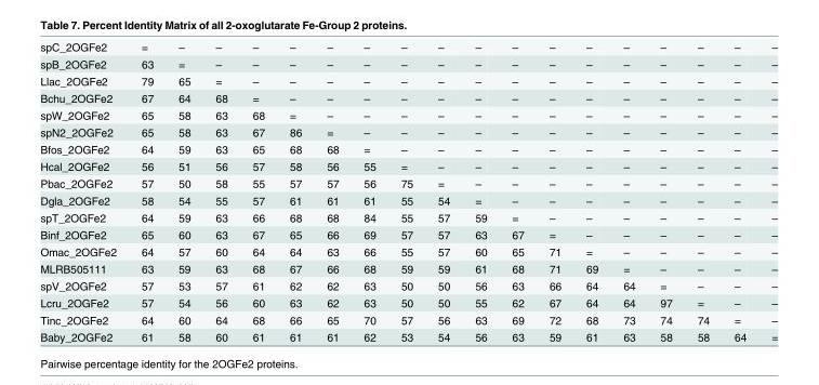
<table><tbody><tr><td>spC_2OGFe2</td><td>=</td><td>–</td><td>–</td><td>–</td><td>–</td><td>–</td><td>–</td><td>–</td><td>–</td><td>–</td><td>–</td><td>–</td><td>–</td><td>–</td><td>–</td><td>–</td><td>–</td><td>–</td></tr><tr><td>spB_2OGFe2</td><td>63</td><td>=</td><td>–</td><td>–</td><td>–</td><td>–</td><td>–</td><td>–</td><td>–</td><td>–</td><td>–</td><td>–</td><td>–</td><td>–</td><td>–</td><td>–</td><td>–</td><td>–</td></tr><tr><td>Llac_2OGFe2</td><td>79</td><td>65</td><td>=</td><td>–</td><td>–</td><td>–</td><td>–</td><td>–</td><td>–</td><td>–</td><td>–</td><td>–</td><td>–</td><td>–</td><td>–</td><td>–</td><td>–</td><td>–</td></tr><tr><td>Bchu_2OGFe2</td><td>67</td><td>64</td><td>68</td><td>=</td><td>–</td><td>–</td><td>–</td><td>–</td><td>–</td><td>–</td><td>–</td><td>–</td><td>–</td><td>–</td><td>–</td><td>–</td><td>–</td><td>–</td></tr><tr><td>spW_2OGFe2</td><td>65</td><td>58</td><td>63</td><td>68</td><td>=</td><td>–</td><td>–</td><td>–</td><td>–</td><td>–</td><td>–</td><td>–</td><td>–</td><td>–</td><td>–</td><td>–</td><td>–</td><td>–</td></tr><tr><td>spN2_2OGFe2</td><td>65</td><td>58</td><td>63</td><td>67</td><td>86</td><td>=</td><td>–</td><td>–</td><td>–</td><td>–</td><td>–</td><td>–</td><td>–</td><td>–</td><td>–</td><td>–</td><td>–</td><td>–</td></tr><tr><td>Bfos_2OGFe2</td><td>64</td><td>59</td><td>63</td><td>65</td><td>68</td><td>68</td><td>=</td><td>–</td><td>–</td><td>–</td><td>–</td><td>–</td><td>–</td><td>–</td><td>–</td><td>–</td><td>–</td><td>–</td></tr><tr><td>Hcal_2OGFe2</td><td>56</td><td>51</td><td>56</td><td>57</td><td>58</td><td>56</td><td>55</td><td>=</td><td>–</td><td>–</td><td>–</td><td>–</td><td>–</td><td>–</td><td>–</td><td>–</td><td>–</td><td>–</td></tr><tr><td>Pbac_2OGFe2</td><td>57</td><td>50</td><td>58</td><td>55</td><td>57</td><td>57</td><td>56</td><td>75</td><td>=</td><td>–</td><td>–</td><td>–</td><td>–</td><td>–</td><td>–</td><td>–</td><td>–</td><td>–</td></tr><tr><td>Dgla_2OGFe2</td><td>58</td><td>54</td><td>55</td><td>57</td><td>61</td><td>61</td><td>61</td><td>55</td><td>54</td><td>=</td><td>–</td><td>–</td><td>–</td><td>–</td><td>–</td><td>–</td><td>–</td><td>–</td></tr><tr><td>spT_2OGFe2</td><td>64</td><td>59</td><td>63</td><td>66</td><td>68</td><td>68</td><td>84</td><td>55</td><td>57</td><td>59</td><td>=</td><td>–</td><td>–</td><td>–</td><td>–</td><td>–</td><td>–</td><td>–</td></tr><tr><td>Binf_2OGFe2</td><td>65</td><td>60</td><td>63</td><td>67</td><td>65</td><td>66</td><td>69</td><td>57</td><td>57</td><td>63</td><td>67</td><td>=</td><td>–</td><td>–</td><td>–</td><td>–</td><td>–</td><td>–</td></tr><tr><td>Omac_2OGFe2</td><td>64</td><td>57</td><td>60</td><td>64</td><td>64</td><td>63</td><td>66</td><td>55</td><td>57</td><td>60</td><td>65</td><td>71</td><td>=</td><td>–</td><td>–</td><td>–</td><td>–</td><td>–</td></tr><tr><td>MLRB505111</td><td>63</td><td>59</td><td>63</td><td>68</td><td>67</td><td>66</td><td>68</td><td>59</td><td>59</td><td>61</td><td>68</td><td>71</td><td>69</td><td>=</td><td>–</td><td>–</td><td>–</td><td>–</td></tr><tr><td>spV_2OGFe2</td><td>57</td><td>53</td><td>57</td><td>61</td><td>62</td><td>62</td><td>63</td><td>50</td><td>50</td><td>56</td><td>63</td><td>66</td><td>64</td><td>64</td><td>=</td><td>–</td><td>–</td><td>–</td></tr><tr><td>Lcru_2OGFe2</td><td>57</td><td>54</td><td>56</td><td>60</td><td>63</td><td>62</td><td>63</td><td>50</td><td>50</td><td>55</td><td>62</td><td>67</td><td>64</td><td>64</td><td>97</td><td>=</td><td>–</td><td>–</td></tr><tr><td>Tinc_2OGFe2</td><td>64</td><td>60</td><td>64</td><td>68</td><td>66</td><td>65</td><td>70</td><td>57</td><td>56</td><td>63</td><td>69</td><td>72</td><td>68</td><td>73</td><td>74</td><td>74</td><td>=</td><td>–</td></tr><tr><td>Baby_2OGFe2</td><td>61</td><td>58</td><td>60</td><td>61</td><td>61</td><td>61</td><td>62</td><td>53</td><td>54</td><td>56</td><td>63</td><td>59</td><td>61</td><td>63</td><td>58</td><td>58</td><td>64</td><td>=</td></tr></tbody></table>